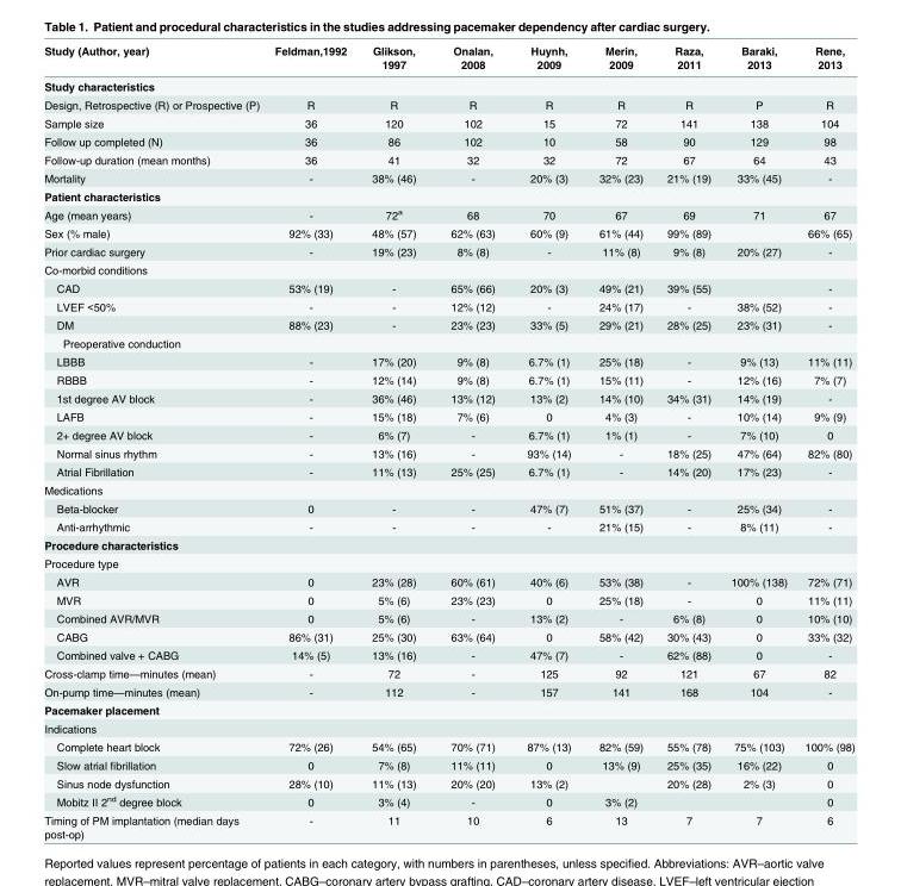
<table><thead><tr><td>Study (Author, year)</td><td>Feldman,1992</td><td>Glikson, 1997</td><td>Onalan, 2008</td><td>Huynh, 2009</td><td>Merin, 2009</td><td>Raza, 2011</td><td>Baraki, 2013</td><td>Rene, 2013</td></tr></thead><tbody><tr><td colspan="9">Study characteristics</td></tr><tr><td>Design, Retrospective (R) or Prospective (P)</td><td>R</td><td>R</td><td>R</td><td>R</td><td>R</td><td>R</td><td>P</td><td>R</td></tr><tr><td>Sample size</td><td>36</td><td>120</td><td>102</td><td>15</td><td>72</td><td>141</td><td>138</td><td>104</td></tr><tr><td>Follow up completed (N)</td><td>36</td><td>86</td><td>102</td><td>10</td><td>58</td><td>90</td><td>129</td><td>98</td></tr><tr><td>Follow-up duration (mean months)</td><td>36</td><td>41</td><td>32</td><td>32</td><td>72</td><td>67</td><td>64</td><td>43</td></tr><tr><td>Mortality</td><td>-</td><td>38% (46)</td><td>-</td><td>20% (3)</td><td>32% (23)</td><td>21% (19)</td><td>33% (45)</td><td>-</td></tr><tr><td colspan="9">Patient characteristics</td></tr><tr><td>Age (mean years)</td><td>-</td><td>72<sup>a</sup></td><td>68</td><td>70</td><td>67</td><td>69</td><td>71</td><td>67</td></tr><tr><td>Sex (% male)</td><td>92% (33)</td><td>48% (57)</td><td>62% (63)</td><td>60% (9)</td><td>61% (44)</td><td>99% (89)</td><td></td><td>66% (65)</td></tr><tr><td>Prior cardiac surgery</td><td>-</td><td>19% (23)</td><td>8% (8)</td><td>-</td><td>11% (8)</td><td>9% (8)</td><td>20% (27)</td><td>-</td></tr><tr><td colspan="9">Co-morbid conditions</td></tr><tr><td>CAD</td><td>53% (19)</td><td>-</td><td>65% (66)</td><td>20% (3)</td><td>49% (21)</td><td>39% (55)</td><td></td><td>-</td></tr><tr><td>LVEF &lt;50%</td><td>-</td><td>-</td><td>12% (12)</td><td>-</td><td>24% (17)</td><td>-</td><td>38% (52)</td><td>-</td></tr><tr><td>DM</td><td>88% (23)</td><td>-</td><td>23% (23)</td><td>33% (5)</td><td>29% (21)</td><td>28% (25)</td><td>23% (31)</td><td>-</td></tr><tr><td colspan="9">Preoperative conduction</td></tr><tr><td>LBBB</td><td>-</td><td>17% (20)</td><td>9% (8)</td><td>6.7% (1)</td><td>25% (18)</td><td>-</td><td>9% (13)</td><td>11% (11)</td></tr><tr><td>RBBB</td><td>-</td><td>12% (14)</td><td>9% (8)</td><td>6.7% (1)</td><td>15% (11)</td><td>-</td><td>12% (16)</td><td>7% (7)</td></tr><tr><td>1st degree AV block</td><td>-</td><td>36% (46)</td><td>13% (12)</td><td>13% (2)</td><td>14% (10)</td><td>34% (31)</td><td>14% (19)</td><td>-</td></tr><tr><td>LAFB</td><td>-</td><td>15% (18)</td><td>7% (6)</td><td>0</td><td>4% (3)</td><td>-</td><td>10% (14)</td><td>9% (9)</td></tr><tr><td>2+ degree AV block</td><td>-</td><td>6% (7)</td><td>-</td><td>6.7% (1)</td><td>1% (1)</td><td>-</td><td>7% (10)</td><td>0</td></tr><tr><td>Normal sinus rhythm</td><td>-</td><td>13% (16)</td><td>-</td><td>93% (14)</td><td>-</td><td>18% (25)</td><td>47% (64)</td><td>82% (80)</td></tr><tr><td>Atrial Fibrillation</td><td>-</td><td>11% (13)</td><td>25% (25)</td><td>6.7% (1)</td><td>-</td><td>14% (20)</td><td>17% (23)</td><td>-</td></tr><tr><td colspan="9">Medications</td></tr><tr><td>Beta-blocker</td><td>0</td><td>-</td><td>-</td><td>47% (7)</td><td>51% (37)</td><td>-</td><td>25% (34)</td><td>-</td></tr><tr><td>Anti-arrhythmic</td><td>-</td><td>-</td><td>-</td><td>-</td><td>21% (15)</td><td>-</td><td>8% (11)</td><td>-</td></tr><tr><td colspan="9">Procedure characteristics</td></tr><tr><td colspan="9">Procedure type</td></tr><tr><td>AVR</td><td>0</td><td>23% (28)</td><td>60% (61)</td><td>40% (6)</td><td>53% (38)</td><td>-</td><td>100% (138)</td><td>72% (71)</td></tr><tr><td>MVR</td><td>0</td><td>5% (6)</td><td>23% (23)</td><td>0</td><td>25% (18)</td><td>-</td><td>0</td><td>11% (11)</td></tr><tr><td>Combined AVR/MVR</td><td>0</td><td>5% (6)</td><td>-</td><td>13% (2)</td><td>-</td><td>6% (8)</td><td>0</td><td>10% (10)</td></tr><tr><td>CABG</td><td>86% (31)</td><td>25% (30)</td><td>63% (64)</td><td>0</td><td>58% (42)</td><td>30% (43)</td><td>0</td><td>33% (32)</td></tr><tr><td>Combined valve + CABG</td><td>14% (5)</td><td>13% (16)</td><td>-</td><td>47% (7)</td><td>-</td><td>62% (88)</td><td>0</td><td>-</td></tr><tr><td>Cross-clamp time—minutes (mean)</td><td>-</td><td>72</td><td>-</td><td>125</td><td>92</td><td>121</td><td>67</td><td>82</td></tr><tr><td>On-pump time—minutes (mean)</td><td>-</td><td>112</td><td>-</td><td>157</td><td>141</td><td>168</td><td>104</td><td>-</td></tr><tr><td colspan="9">Pacemaker placement</td></tr><tr><td colspan="9">Indications</td></tr><tr><td>Complete heart block</td><td>72% (26)</td><td>54% (65)</td><td>70% (71)</td><td>87% (13)</td><td>82% (59)</td><td>55% (78)</td><td>75% (103)</td><td>100% (98)</td></tr><tr><td>Slow atrial fibrillation</td><td>0</td><td>7% (8)</td><td>11% (11)</td><td>0</td><td>13% (9)</td><td>25% (35)</td><td>16% (22)</td><td>0</td></tr><tr><td>Sinus node dysfunction</td><td>28% (10)</td><td>11% (13)</td><td>20% (20)</td><td>13% (2)</td><td></td><td>20% (28)</td><td>2% (3)</td><td>0</td></tr><tr><td>Mobitz II 2<sup>nd</sup> degree block</td><td>0</td><td>3% (4)</td><td>-</td><td>0</td><td>3% (2)</td><td></td><td></td><td>0</td></tr><tr><td>Timing of PM implantation (median days post-op)</td><td>-</td><td>11</td><td>10</td><td>6</td><td>13</td><td>7</td><td>7</td><td>6</td></tr></tbody></table>